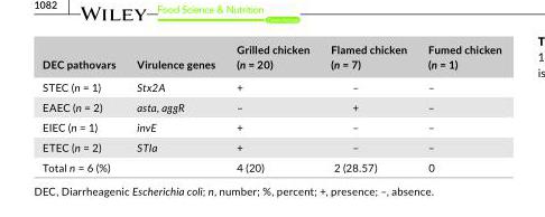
<table><thead><tr><td>DEC pathovars</td><td>Virulence genes</td><td>Grilled chicken (n = 20)</td><td>Flamed chicken (n = 7)</td><td>Fumed chicken (n = 1)</td></tr></thead><tbody><tr><td>STEC (n = 1)</td><td>Stx2A</td><td>+</td><td>–</td><td>–</td></tr><tr><td>EAEC (n = 2)</td><td>asta, aggR</td><td>–</td><td>+</td><td>–</td></tr><tr><td>EIEC (n = 1)</td><td>invE</td><td>+</td><td>–</td><td>–</td></tr><tr><td>ETEC (n = 2)</td><td>STIa</td><td>+</td><td>–</td><td>–</td></tr><tr><td>Total n = 6 (%)</td><td></td><td>4 (20)</td><td>2 (28.57)</td><td>0</td></tr></tbody></table>